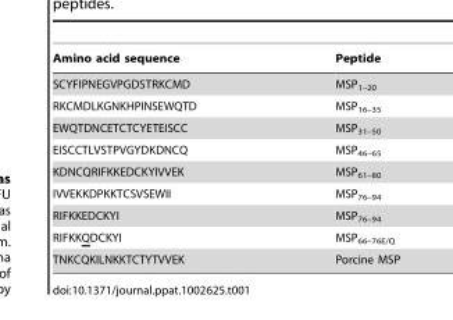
<table><thead><tr><td>Amino acid sequence</td><td>Peptide</td></tr></thead><tbody><tr><td>SCYFIPNEGVPGDSTRKCMD</td><td>MSP<sub>1–20</sub></td></tr><tr><td>RKCMDLKGNKHPINSEWQTD</td><td>MSP<sub>16–35</sub></td></tr><tr><td>EWQTDNCETCTCYETEISCC</td><td>MSP<sub>31–50</sub></td></tr><tr><td>EISCCTLVSTPVGYDKDNCQ</td><td>MSP<sub>46–65</sub></td></tr><tr><td>KDNCQRIFKKEDCKYIVVEK</td><td>MSP<sub>61–80</sub></td></tr><tr><td>IVVEKKDPKKTCSVSEWII</td><td>MSP<sub>76–94</sub></td></tr><tr><td>RIFKKEDCKYI</td><td>MSP<sub>76–94</sub></td></tr><tr><td>RIFKKQDCKYI</td><td>MSP<sub>66–76E/Q</sub></td></tr><tr><td>TNKCQKILNKKTCTYTVVEK</td><td>Porcine MSP</td></tr></tbody></table>